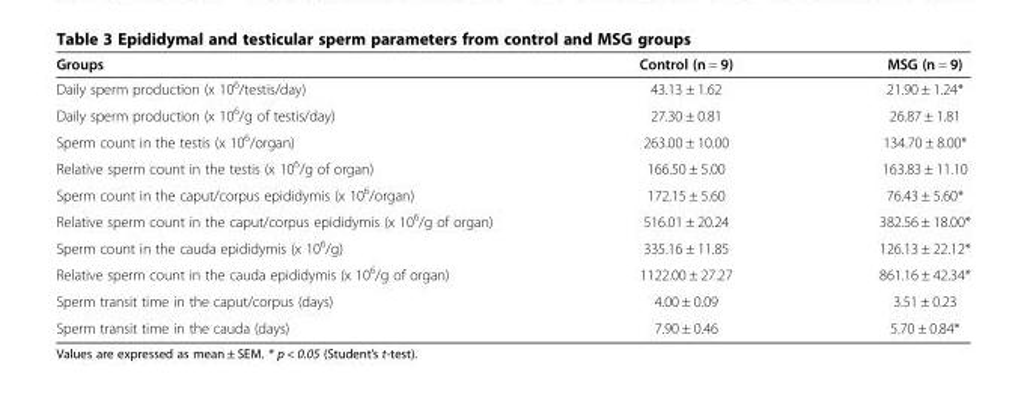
<table><thead><tr><td>Groups</td><td>Control (n = 9)</td><td>MSG (n = 9)</td></tr></thead><tbody><tr><td>Daily sperm production (x 10<sup>6</sup>/testis/day)</td><td>43.13 ± 1.62</td><td>21.90 ± 1.24*</td></tr><tr><td>Daily sperm production (x 10<sup>6</sup>/g of testis/day)</td><td>27.30 ± 0.81</td><td>26.87 ± 1.81</td></tr><tr><td>Sperm count in the testis (x 10<sup>6</sup>/organ)</td><td>263.00 ± 10.00</td><td>134.70 ± 8.00*</td></tr><tr><td>Relative sperm count in the testis (x 10<sup>6</sup>/g of organ)</td><td>166.50 ± 5.00</td><td>163.83 ± 11.10</td></tr><tr><td>Sperm count in the caput/corpus epididymis (x 10<sup>6</sup>/organ)</td><td>172.15 ± 5.60</td><td>76.43 ± 5.60*</td></tr><tr><td>Relative sperm count in the caput/corpus epididymis (x 10<sup>6</sup>/g of organ)</td><td>516.01 ± 20.24</td><td>382.56 ± 18.00*</td></tr><tr><td>Sperm count in the cauda epididymis (x 10<sup>6</sup>/g)</td><td>335.16 ± 11.85</td><td>126.13 ± 22.12*</td></tr><tr><td>Relative sperm count in the cauda epididymis (x 10<sup>6</sup>/g of organ)</td><td>1122.00 ± 27.27</td><td>861.16 ± 42.34*</td></tr><tr><td>Sperm transit time in the caput/corpus (days)</td><td>4.00 ± 0.09</td><td>3.51 ± 0.23</td></tr><tr><td>Sperm transit time in the cauda (days)</td><td>7.90 ± 0.46</td><td>5.70 ± 0.84*</td></tr></tbody></table>